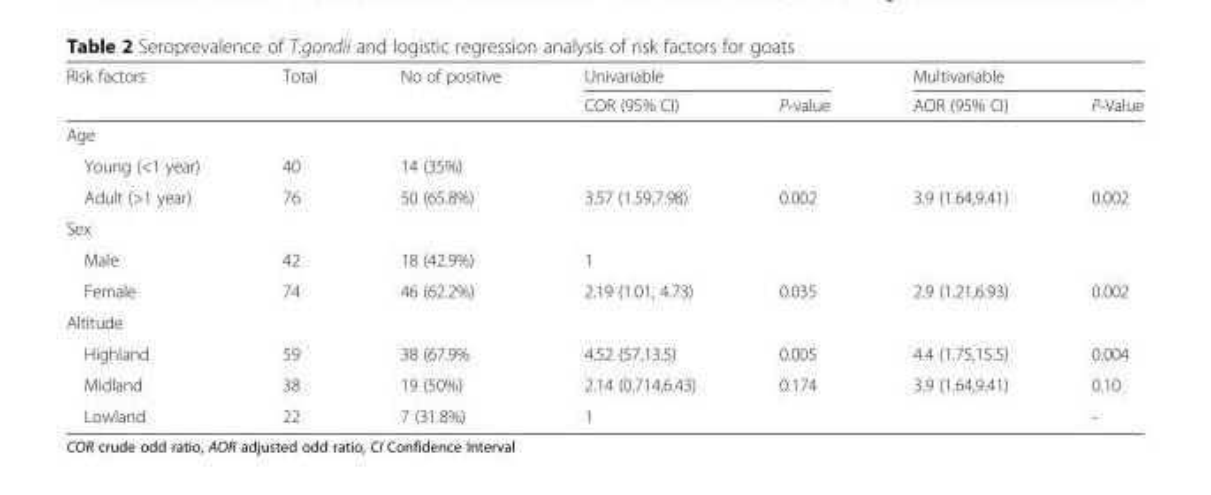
<table><thead><tr><td rowspan="2">Risk factors</td><td rowspan="2">Total</td><td rowspan="2">No of positive</td><td colspan="2">Univariable</td><td colspan="2">Multivariable</td></tr><tr><td>COR (95% CI)</td><td>P-value</td><td>AOR (95% CI)</td><td>P-Value</td></tr></thead><tbody><tr><td colspan="7">Age</td></tr><tr><td>Young (&lt;1 year)</td><td>40</td><td>14 (35%)</td><td></td><td></td><td></td><td></td></tr><tr><td>Adult (&gt;1 year)</td><td>76</td><td>50 (65.8%)</td><td>3.57 (1.59,7.98)</td><td>0.002</td><td>3.9 (1.64,9.41)</td><td>0.002</td></tr><tr><td colspan="7">Sex</td></tr><tr><td>Male</td><td>42</td><td>18 (42.9%)</td><td>1</td><td></td><td></td><td></td></tr><tr><td>Female</td><td>74</td><td>46 (62.2%)</td><td>2.19 (1.01, 4.73)</td><td>0.035</td><td>2.9 (1.21,6.93)</td><td>0.002</td></tr><tr><td colspan="7">Altitude</td></tr><tr><td>Highland</td><td>59</td><td>38 (67.9%</td><td>4.52 (57,13.5)</td><td>0.005</td><td>4.4 (1.75,15.5)</td><td>0.004</td></tr><tr><td>Midland</td><td>38</td><td>19 (50%)</td><td>2.14 (0.714,6.43)</td><td>0.174</td><td>3.9 (1.64,9.41)</td><td>0.10</td></tr><tr><td>Lowland</td><td>22</td><td>7 (31.8%)</td><td>1</td><td></td><td></td><td>-</td></tr></tbody></table>